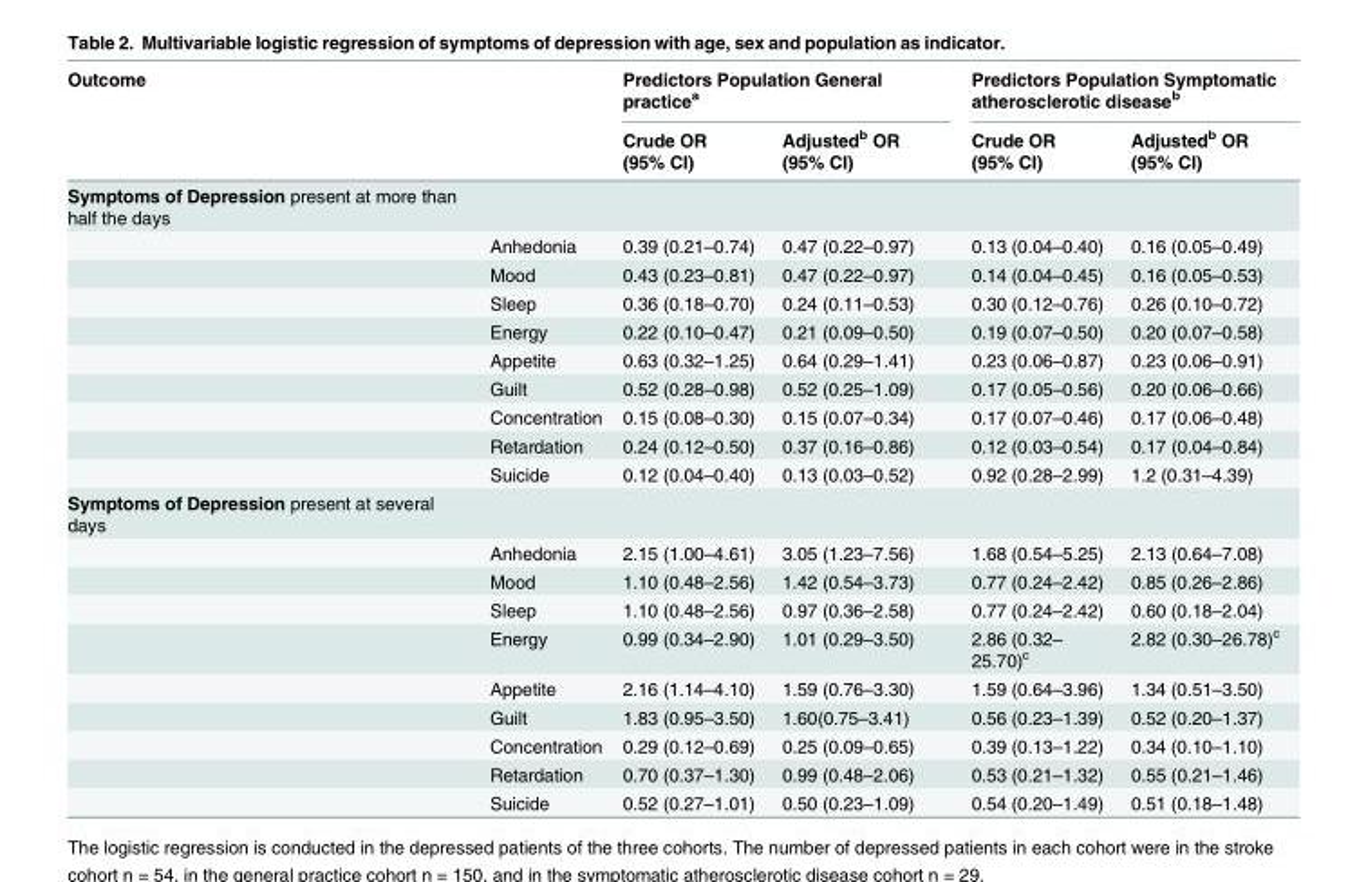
<table><thead><tr><td colspan="2">Outcome</td><td colspan="2">Predictors Population General practice<sup>a</sup></td><td colspan="2">Predictors Population Symptomatic atherosclerotic disease<sup>b</sup></td></tr><tr><td></td><td></td><td>Crude OR (95% CI)</td><td>Adjusted<sup>b</sup> OR (95% CI)</td><td>Crude OR (95% CI)</td><td>Adjusted<sup>b</sup> OR (95% CI)</td></tr></thead><tbody><tr><td colspan="6">Symptoms of Depression present at more than half the days</td></tr><tr><td></td><td>Anhedonia</td><td>0.39 (0.21–0.74)</td><td>0.47 (0.22–0.97)</td><td>0.13 (0.04–0.40)</td><td>0.16 (0.05–0.49)</td></tr><tr><td></td><td>Mood</td><td>0.43 (0.23–0.81)</td><td>0.47 (0.22–0.97)</td><td>0.14 (0.04–0.45)</td><td>0.16 (0.05–0.53)</td></tr><tr><td></td><td>Sleep</td><td>0.36 (0.18–0.70)</td><td>0.24 (0.11–0.53)</td><td>0.30 (0.12–0.76)</td><td>0.26 (0.10–0.72)</td></tr><tr><td></td><td>Energy</td><td>0.22 (0.10–0.47)</td><td>0.21 (0.09–0.50)</td><td>0.19 (0.07–0.50)</td><td>0.20 (0.07–0.58)</td></tr><tr><td></td><td>Appetite</td><td>0.63 (0.32–1.25)</td><td>0.64 (0.29–1.41)</td><td>0.23 (0.06–0.87)</td><td>0.23 (0.06–0.91)</td></tr><tr><td></td><td>Guilt</td><td>0.52 (0.28–0.98)</td><td>0.52 (0.25–1.09)</td><td>0.17 (0.05–0.56)</td><td>0.20 (0.06–0.66)</td></tr><tr><td></td><td>Concentration</td><td>0.15 (0.08–0.30)</td><td>0.15 (0.07–0.34)</td><td>0.17 (0.07–0.46)</td><td>0.17 (0.06–0.48)</td></tr><tr><td></td><td>Retardation</td><td>0.24 (0.12–0.50)</td><td>0.37 (0.16–0.86)</td><td>0.12 (0.03–0.54)</td><td>0.17 (0.04–0.84)</td></tr><tr><td></td><td>Suicide</td><td>0.12 (0.04–0.40)</td><td>0.13 (0.03–0.52)</td><td>0.92 (0.28–2.99)</td><td>1.2 (0.31–4.39)</td></tr><tr><td colspan="6">Symptoms of Depression present at several days</td></tr><tr><td></td><td>Anhedonia</td><td>2.15 (1.00–4.61)</td><td>3.05 (1.23–7.56)</td><td>1.68 (0.54–5.25)</td><td>2.13 (0.64–7.08)</td></tr><tr><td></td><td>Mood</td><td>1.10 (0.48–2.56)</td><td>1.42 (0.54–3.73)</td><td>0.77 (0.24–2.42)</td><td>0.85 (0.26–2.86)</td></tr><tr><td></td><td>Sleep</td><td>1.10 (0.48–2.56)</td><td>0.97 (0.36–2.58)</td><td>0.77 (0.24–2.42)</td><td>0.60 (0.18–2.04)</td></tr><tr><td></td><td>Energy</td><td>0.99 (0.34–2.90)</td><td>1.01 (0.29–3.50)</td><td>2.86 (0.32– 25.70)<sup>c</sup></td><td>2.82 (0.30–26.78)<sup>c</sup></td></tr><tr><td></td><td>Appetite</td><td>2.16 (1.14–4.10)</td><td>1.59 (0.76–3.30)</td><td>1.59 (0.64–3.96)</td><td>1.34 (0.51–3.50)</td></tr><tr><td></td><td>Guilt</td><td>1.83 (0.95–3.50)</td><td>1.60(0.75–3.41)</td><td>0.56 (0.23–1.39)</td><td>0.52 (0.20–1.37)</td></tr><tr><td></td><td>Concentration</td><td>0.29 (0.12–0.69)</td><td>0.25 (0.09–0.65)</td><td>0.39 (0.13–1.22)</td><td>0.34 (0.10–1.10)</td></tr><tr><td></td><td>Retardation</td><td>0.70 (0.37–1.30)</td><td>0.99 (0.48–2.06)</td><td>0.53 (0.21–1.32)</td><td>0.55 (0.21–1.46)</td></tr><tr><td></td><td>Suicide</td><td>0.52 (0.27–1.01)</td><td>0.50 (0.23–1.09)</td><td>0.54 (0.20–1.49)</td><td>0.51 (0.18–1.48)</td></tr></tbody></table>